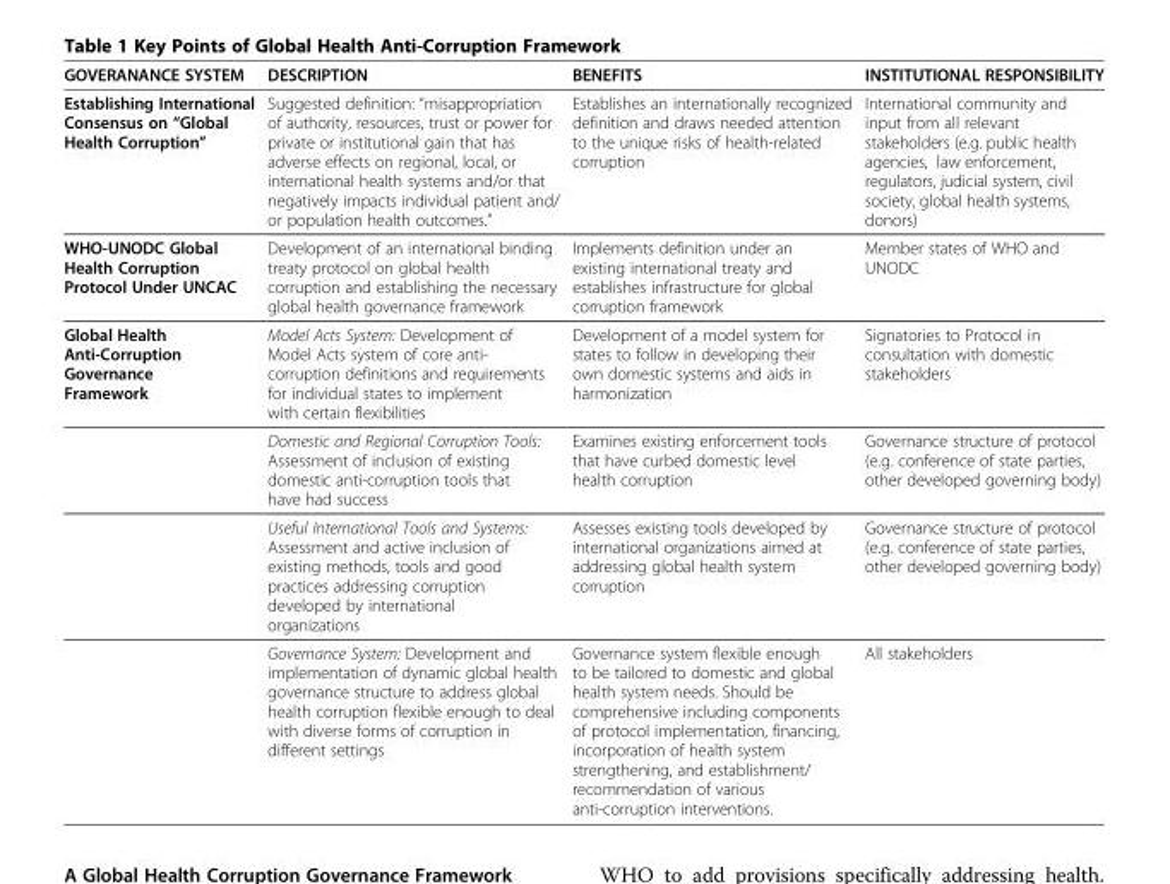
<table><thead><tr><td>GOVERANANCE SYSTEM</td><td>DESCRIPTION</td><td>BENEFITS</td><td>INSTITUTIONAL RESPONSIBILITY</td></tr></thead><tbody><tr><td>Establishing International Consensus on “Global Health Corruption”</td><td>Suggested definition: “misappropriation of authority, resources, trust or power for private or institutional gain that has adverse effects on regional, local, or international health systems and/or that negatively impacts individual patient and/ or population health outcomes.”</td><td>Establishes an internationally recognized definition and draws needed attention to the unique risks of health-related corruption</td><td>International community and input from all relevant stakeholders (e.g. public health agencies, law enforcement, regulators, judicial system, civil society, global health systems, donors)</td></tr><tr><td>WHO-UNODC Global Health Corruption Protocol Under UNCAC</td><td>Development of an international binding treaty protocol on global health corruption and establishing the necessary global health governance framework</td><td>Implements definition under an existing international treaty and establishes infrastructure for global corruption framework</td><td>Member states of WHO and UNODC</td></tr><tr><td rowspan="4">Global Health Anti-Corruption Governance Framework</td><td>Model Acts System: Development of Model Acts system of core anti- corruption definitions and requirements for individual states to implement with certain flexibilities</td><td>Development of a model system for states to follow in developing their own domestic systems and aids in harmonization</td><td>Signatories to Protocol in consultation with domestic stakeholders</td></tr><tr><td>Domestic and Regional Corruption Tools: Assessment of inclusion of existing domestic anti-corruption tools that have had success</td><td>Examines existing enforcement tools that have curbed domestic level health corruption</td><td>Governance structure of protocol (e.g. conference of state parties, other developed governing body)</td></tr><tr><td>Useful International Tools and Systems: Assessment and active inclusion of existing methods, tools and good practices addressing corruption developed by international organizations</td><td>Assesses existing tools developed by international organizations aimed at addressing global health system corruption</td><td>Governance structure of protocol (e.g. conference of state parties, other developed governing body)</td></tr><tr><td>Governance System: Development and implementation of dynamic global health governance structure to address global health corruption flexible enough to deal with diverse forms of corruption in different settings</td><td>Governance system flexible enough to be tailored to domestic and global health system needs. Should be comprehensive including components of protocol implementation, financing, incorporation of health system strengthening, and establishment/ recommendation of various anti-corruption interventions.</td><td>All stakeholders</td></tr></tbody></table>